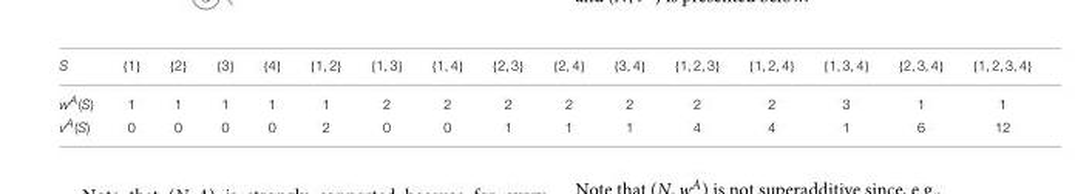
<table><thead><tr><td>S</td><td>{1}</td><td>{2}</td><td>{3}</td><td>{4}</td><td>{1, 2}</td><td>{1, 3}</td><td>{1, 4}</td><td>{2, 3}</td><td>{2, 4}</td><td>{3, 4}</td><td>{1, 2, 3}</td><td>{1, 2, 4}</td><td>{1, 3, 4}</td><td>{2, 3, 4}</td><td>{1, 2, 3, 4}</td></tr></thead><tbody><tr><td>w<sup>A</sup>(S)</td><td>1</td><td>1</td><td>1</td><td>1</td><td>1</td><td>2</td><td>2</td><td>2</td><td>2</td><td>2</td><td>2</td><td>2</td><td>3</td><td>1</td><td>1</td></tr><tr><td>v<sup>A</sup>(S)</td><td>0</td><td>0</td><td>0</td><td>0</td><td>2</td><td>0</td><td>0</td><td>1</td><td>1</td><td>1</td><td>4</td><td>4</td><td>1</td><td>6</td><td>12</td></tr></tbody></table>